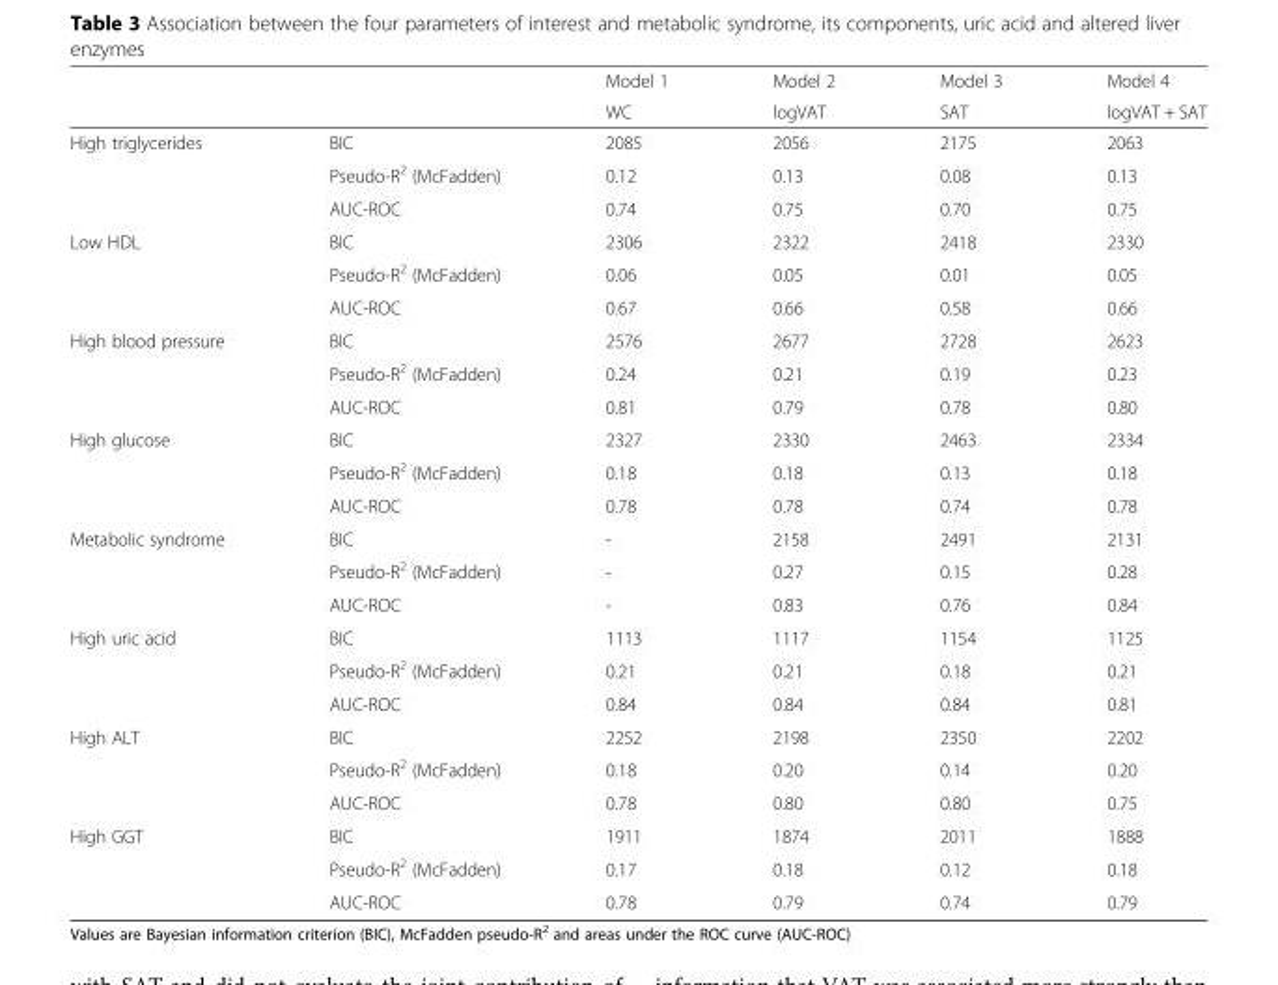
<table><thead><tr><td rowspan="2"></td><td rowspan="2"></td><td rowspan="2">Model 1 WC</td><td rowspan="2">Model 2 logVAT</td><td rowspan="2">Model 3 SAT</td><td rowspan="2">Model 4 logVAT + SAT</td></tr><tr></tr></thead><tbody><tr><td rowspan="3">High triglycerides</td><td>BIC</td><td>2085</td><td>2056</td><td>2175</td><td>2063</td></tr><tr><td>Pseudo-R<sup>2</sup> (McFadden)</td><td>0.12</td><td>0.13</td><td>0.08</td><td>0.13</td></tr><tr><td>AUC-ROC</td><td>0.74</td><td>0.75</td><td>0.70</td><td>0.75</td></tr><tr><td rowspan="3">Low HDL</td><td>BIC</td><td>2306</td><td>2322</td><td>2418</td><td>2330</td></tr><tr><td>Pseudo-R<sup>2</sup> (McFadden)</td><td>0.06</td><td>0.05</td><td>0.01</td><td>0.05</td></tr><tr><td>AUC-ROC</td><td>0.67</td><td>0.66</td><td>0.58</td><td>0.66</td></tr><tr><td rowspan="3">High blood pressure</td><td>BIC</td><td>2576</td><td>2677</td><td>2728</td><td>2623</td></tr><tr><td>Pseudo-R<sup>2</sup> (McFadden)</td><td>0.24</td><td>0.21</td><td>0.19</td><td>0.23</td></tr><tr><td>AUC-ROC</td><td>0.81</td><td>0.79</td><td>0.78</td><td>0.80</td></tr><tr><td rowspan="3">High glucose</td><td>BIC</td><td>2327</td><td>2330</td><td>2463</td><td>2334</td></tr><tr><td>Pseudo-R<sup>2</sup> (McFadden)</td><td>0.18</td><td>0.18</td><td>0.13</td><td>0.18</td></tr><tr><td>AUC-ROC</td><td>0.78</td><td>0.78</td><td>0.74</td><td>0.78</td></tr><tr><td rowspan="3">Metabolic syndrome</td><td>BIC</td><td>-</td><td>2158</td><td>2491</td><td>2131</td></tr><tr><td>Pseudo-R<sup>2</sup> (McFadden)</td><td>-</td><td>0.27</td><td>0.15</td><td>0.28</td></tr><tr><td>AUC-ROC</td><td>-</td><td>0.83</td><td>0.76</td><td>0.84</td></tr><tr><td rowspan="3">High uric acid</td><td>BIC</td><td>1113</td><td>1117</td><td>1154</td><td>1125</td></tr><tr><td>Pseudo-R<sup>2</sup> (McFadden)</td><td>0.21</td><td>0.21</td><td>0.18</td><td>0.21</td></tr><tr><td>AUC-ROC</td><td>0.84</td><td>0.84</td><td>0.84</td><td>0.81</td></tr><tr><td rowspan="3">High ALT</td><td>BIC</td><td>2252</td><td>2198</td><td>2350</td><td>2202</td></tr><tr><td>Pseudo-R<sup>2</sup> (McFadden)</td><td>0.18</td><td>0.20</td><td>0.14</td><td>0.20</td></tr><tr><td>AUC-ROC</td><td>0.78</td><td>0.80</td><td>0.80</td><td>0.75</td></tr><tr><td rowspan="3">High GGT</td><td>BIC</td><td>1911</td><td>1874</td><td>2011</td><td>1888</td></tr><tr><td>Pseudo-R<sup>2</sup> (McFadden)</td><td>0.17</td><td>0.18</td><td>0.12</td><td>0.18</td></tr><tr><td>AUC-ROC</td><td>0.78</td><td>0.79</td><td>0.74</td><td>0.79</td></tr></tbody></table>